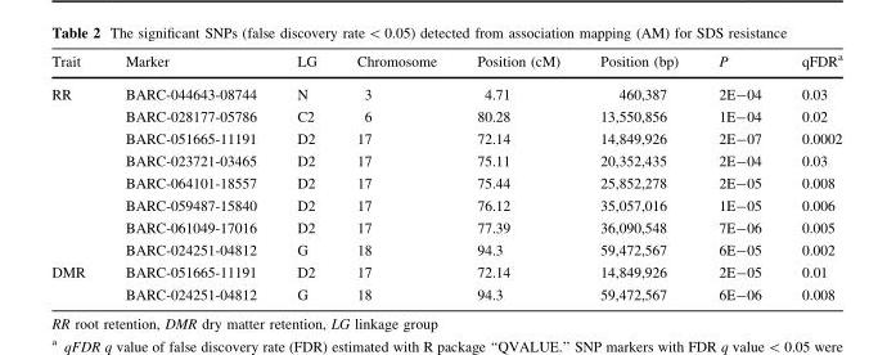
<table><thead><tr><td>Trait</td><td>Marker</td><td>LG</td><td>Chromosome</td><td>Position (cM)</td><td>Position (bp)</td><td>P</td><td>qFDR<sup>a</sup></td></tr></thead><tbody><tr><td rowspan="8">RR</td><td>BARC-044643-08744</td><td>N</td><td>3</td><td>4.71</td><td>460,387</td><td>2E-04</td><td>0.03</td></tr><tr><td>BARC-028177-05786</td><td>C2</td><td>6</td><td>80.28</td><td>13,550,856</td><td>1E-04</td><td>0.02</td></tr><tr><td>BARC-051665-11191</td><td>D2</td><td>17</td><td>72.14</td><td>14,849,926</td><td>2E-07</td><td>0.0002</td></tr><tr><td>BARC-023721-03465</td><td>D2</td><td>17</td><td>75.11</td><td>20,352,435</td><td>2E-04</td><td>0.03</td></tr><tr><td>BARC-064101-18557</td><td>D2</td><td>17</td><td>75.44</td><td>25,852,278</td><td>2E-05</td><td>0.008</td></tr><tr><td>BARC-059487-15840</td><td>D2</td><td>17</td><td>76.12</td><td>35,057,016</td><td>1E-05</td><td>0.006</td></tr><tr><td>BARC-061049-17016</td><td>D2</td><td>17</td><td>77.39</td><td>36,090,548</td><td>7E-06</td><td>0.005</td></tr><tr><td>BARC-024251-04812</td><td>G</td><td>18</td><td>94.3</td><td>59,472,567</td><td>6E-05</td><td>0.002</td></tr><tr><td rowspan="2">DMR</td><td>BARC-051665-11191</td><td>D2</td><td>17</td><td>72.14</td><td>14,849,926</td><td>2E-05</td><td>0.01</td></tr><tr><td>BARC-024251-04812</td><td>G</td><td>18</td><td>94.3</td><td>59,472,567</td><td>6E-06</td><td>0.008</td></tr></tbody></table>